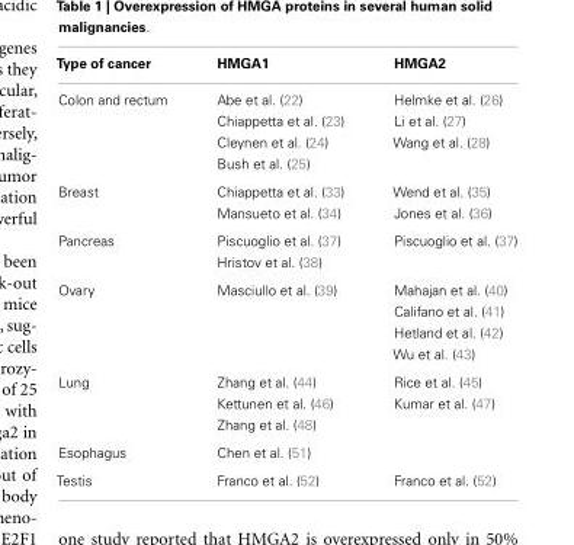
<table><thead><tr><td>Type of cancer</td><td>HMGA1</td><td>HMGA2</td></tr></thead><tbody><tr><td rowspan="4">Colon and rectum</td><td>Abe et al. (22)</td><td>Helmke et al. (26)</td></tr><tr><td>Chiappetta et al. (23)</td><td>Li et al. (27)</td></tr><tr><td>Cleynen et al. (24)</td><td>Wang et al. (28)</td></tr><tr><td>Bush et al. (25)</td><td></td></tr><tr><td rowspan="2">Breast</td><td>Chiappetta et al. (33)</td><td>Wend et al. (35)</td></tr><tr><td>Mansueto et al. (34)</td><td>Jones et al. (36)</td></tr><tr><td rowspan="2">Pancreas</td><td>Piscuoglio et al. (37)</td><td>Piscuoglio et al. (37)</td></tr><tr><td>Hristov et al. (38)</td><td></td></tr><tr><td rowspan="4">Ovary</td><td>Masciullo et al. (39)</td><td>Mahajan et al. (40)</td></tr><tr><td></td><td>Califano et al. (41)</td></tr><tr><td></td><td>Hetland et al. (42)</td></tr><tr><td></td><td>Wu et al. (43)</td></tr><tr><td rowspan="3">Lung</td><td>Zhang et al. (44)</td><td>Rice et al. (45)</td></tr><tr><td>Kettunen et al. (46)</td><td>Kumar et al. (47)</td></tr><tr><td>Zhang et al. (48)</td><td></td></tr><tr><td>Esophagus</td><td>Chen et al. (51)</td><td></td></tr><tr><td>Testis</td><td>Franco et al. (52)</td><td>Franco et al. (52)</td></tr></tbody></table>